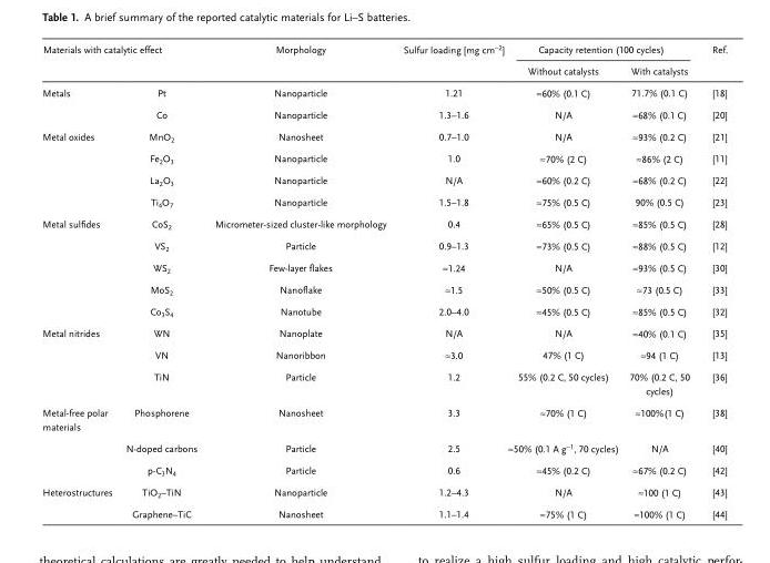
<table><thead><tr><td colspan="2">Materials with catalytic effect</td><td rowspan="2">Morphology</td><td rowspan="2">Sulfur loading [mg cm<sup>−2</sup>]</td><td colspan="2">Capacity retention (100 cycles)</td><td rowspan="2">Ref.</td></tr><tr><td></td><td></td><td>Without catalysts</td><td>With catalysts</td></tr></thead><tbody><tr><td rowspan="2">Metals</td><td>Pt</td><td>Nanoparticle</td><td>1.21</td><td>≈60% (0.1 C)</td><td>71.7% (0.1 C)</td><td>[18]</td></tr><tr><td>Co</td><td>Nanoparticle</td><td>1.3–1.6</td><td>N/A</td><td>≈68% (0.1 C)</td><td>[20]</td></tr><tr><td rowspan="4">Metal oxides</td><td>MnO<sub>2</sub></td><td>Nanosheet</td><td>0.7–1.0</td><td>N/A</td><td>≈93% (0.2 C)</td><td>[21]</td></tr><tr><td>Fe<sub>2</sub>O<sub>3</sub></td><td>Nanoparticle</td><td>1.0</td><td>≈70% (2 C)</td><td>≈86% (2 C)</td><td>[11]</td></tr><tr><td>La<sub>2</sub>O<sub>3</sub></td><td>Nanoparticle</td><td>N/A</td><td>≈60% (0.2 C)</td><td>≈68% (0.2 C)</td><td>[22]</td></tr><tr><td>Ti<sub>4</sub>O<sub>7</sub></td><td>Nanoparticle</td><td>1.5–1.8</td><td>≈75% (0.5 C)</td><td>90% (0.5 C)</td><td>[23]</td></tr><tr><td rowspan="5">Metal sulfides</td><td>CoS<sub>2</sub></td><td>Micrometer-sized cluster-like morphology</td><td>0.4</td><td>≈65% (0.5 C)</td><td>≈85% (0.5 C)</td><td>[28]</td></tr><tr><td>VS<sub>2</sub></td><td>Particle</td><td>0.9–1.3</td><td>≈73% (0.5 C)</td><td>≈88% (0.5 C)</td><td>[12]</td></tr><tr><td>WS<sub>2</sub></td><td>Few-layer flakes</td><td>≈1.24</td><td>N/A</td><td>≈93% (0.5 C)</td><td>[30]</td></tr><tr><td>MoS<sub>2</sub></td><td>Nanoflake</td><td>≈1.5</td><td>≈50% (0.5 C)</td><td>≈73 (0.5 C)</td><td>[33]</td></tr><tr><td>Co<sub>3</sub>S<sub>4</sub></td><td>Nanotube</td><td>2.0–4.0</td><td>≈45% (0.5 C)</td><td>≈85% (0.5 C)</td><td>[32]</td></tr><tr><td rowspan="3">Metal nitrides</td><td>WN</td><td>Nanoplate</td><td>N/A</td><td>N/A</td><td>≈40% (0.1 C)</td><td>[35]</td></tr><tr><td>VN</td><td>Nanoribbon</td><td>≈3.0</td><td>47% (1 C)</td><td>≈94 (1 C)</td><td>[13]</td></tr><tr><td>TiN</td><td>Particle</td><td>1.2</td><td>55% (0.2 C, 50 cycles)</td><td>70% (0.2 C, 50 cycles)</td><td>[36]</td></tr><tr><td rowspan="3">Metal-free polar materials</td><td>Phosphorene</td><td>Nanosheet</td><td>3.3</td><td>≈70% (1 C)</td><td>≈100%(1 C)</td><td>[38]</td></tr><tr><td>N-doped carbons</td><td>Particle</td><td>2.5</td><td>≈50% (0.1 A g<sup>−1</sup>, 70 cycles)</td><td>N/A</td><td>[40]</td></tr><tr><td>p-C<sub>3</sub>N<sub>4</sub></td><td>Particle</td><td>0.6</td><td>≈45% (0.2 C)</td><td>≈67% (0.2 C)</td><td>[42]</td></tr><tr><td rowspan="2">Heterostructures</td><td>TiO<sub>2</sub>–TiN</td><td>Nanoparticle</td><td>1.2–4.3</td><td>N/A</td><td>≈100 (1 C)</td><td>[43]</td></tr><tr><td>Graphene–TiC</td><td>Nanosheet</td><td>1.1–1.4</td><td>≈75% (1 C)</td><td>≈100% (1 C)</td><td>[44]</td></tr></tbody></table>